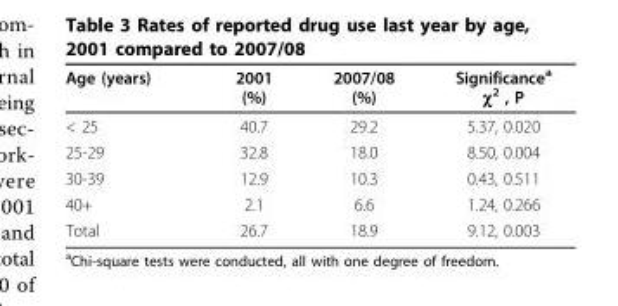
<table><thead><tr><td>Age (years)</td><td>2001 (%)</td><td>2007/08 (%)</td><td>Significance<sup>a</sup> χ<sup>2</sup> , P</td></tr></thead><tbody><tr><td>&lt; 25</td><td>40.7</td><td>29.2</td><td>5.37, 0.020</td></tr><tr><td>25-29</td><td>32.8</td><td>18.0</td><td>8.50, 0.004</td></tr><tr><td>30-39</td><td>12.9</td><td>10.3</td><td>0.43, 0.511</td></tr><tr><td>40+</td><td>2.1</td><td>6.6</td><td>1.24, 0.266</td></tr><tr><td>Total</td><td>26.7</td><td>18.9</td><td>9.12, 0.003</td></tr></tbody></table>